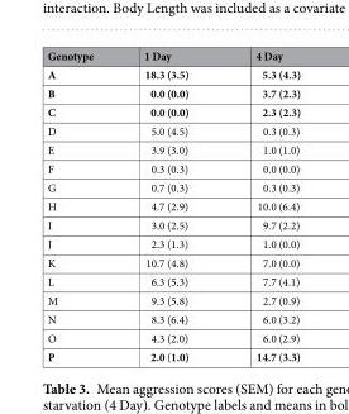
<table><thead><tr><td>Genotype</td><td>1 Day</td><td>4 Day</td></tr></thead><tbody><tr><td>A</td><td>18.3 (3.5)</td><td>5.3 (4.3)</td></tr><tr><td>B</td><td>0.0 (0.0)</td><td>3.7 (2.3)</td></tr><tr><td>C</td><td>0.0 (0.0)</td><td>2.3 (2.3)</td></tr><tr><td>D</td><td>5.0 (4.5)</td><td>0.3 (0.3)</td></tr><tr><td>E</td><td>3.9 (3.0)</td><td>1.0 (1.0)</td></tr><tr><td>F</td><td>0.3 (0.3)</td><td>0.0 (0.0)</td></tr><tr><td>G</td><td>0.7 (0.3)</td><td>0.3 (0.3)</td></tr><tr><td>H</td><td>4.7 (2.9)</td><td>10.0 (6.4)</td></tr><tr><td>I</td><td>3.0 (2.5)</td><td>9.7 (2.2)</td></tr><tr><td>J</td><td>2.3 (1.3)</td><td>1.0 (0.0)</td></tr><tr><td>K</td><td>10.7 (4.8)</td><td>7.0 (0.0)</td></tr><tr><td>L</td><td>6.3 (5.3)</td><td>7.7 (4.1)</td></tr><tr><td>M</td><td>9.3 (5.8)</td><td>2.7 (0.9)</td></tr><tr><td>N</td><td>8.3 (6.4)</td><td>6.0 (3.2)</td></tr><tr><td>O</td><td>4.3 (2.0)</td><td>6.0 (2.9)</td></tr><tr><td>P</td><td>2.0 (1.0)</td><td>14.7 (3.3)</td></tr></tbody></table>